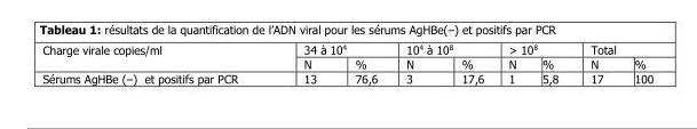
<table><tbody><tr><td rowspan="2">Charge virale copies/ml</td><td colspan="2">34 à 10<sup>4</sup></td><td colspan="2">10<sup>4</sup> à 10<sup>8</sup></td><td colspan="2">&gt; 10<sup>8</sup></td><td colspan="2">Total</td></tr><tr><td>N</td><td>%</td><td>N</td><td>%</td><td>N</td><td>%</td><td>N</td><td>%</td></tr><tr><td>Sérums AgHBe (–) et positifs par PCR</td><td>13</td><td>76,6</td><td>3</td><td>17,6</td><td>1</td><td>5,8</td><td>17</td><td>100</td></tr></tbody></table>